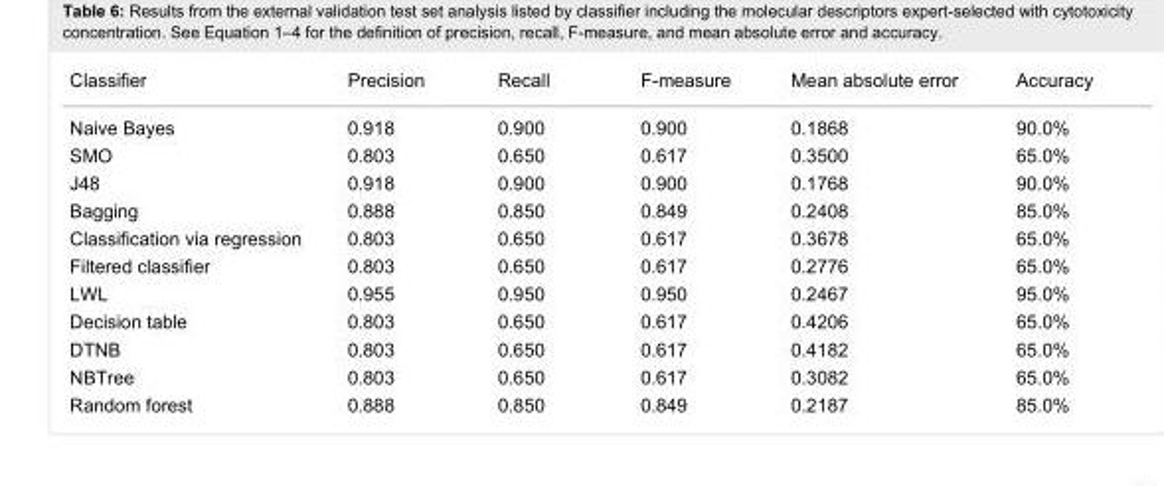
<table><tbody><tr><td>Classifier</td><td>Precision</td><td>Recall</td><td>F-measure</td><td>Mean absolute error</td><td>Accuracy</td></tr><tr><td>Naive Bayes</td><td>0.918</td><td>0.900</td><td>0.900</td><td>0.1868</td><td>90.0%</td></tr><tr><td>SMO</td><td>0.803</td><td>0.650</td><td>0.617</td><td>0.3500</td><td>65.0%</td></tr><tr><td>J48</td><td>0.918</td><td>0.900</td><td>0.900</td><td>0.1768</td><td>90.0%</td></tr><tr><td>Bagging</td><td>0.888</td><td>0.850</td><td>0.849</td><td>0.2408</td><td>85.0%</td></tr><tr><td>Classification via regression</td><td>0.803</td><td>0.650</td><td>0.617</td><td>0.3678</td><td>65.0%</td></tr><tr><td>Filtered classifier</td><td>0.803</td><td>0.650</td><td>0.617</td><td>0.2776</td><td>65.0%</td></tr><tr><td>LWL</td><td>0.955</td><td>0.950</td><td>0.950</td><td>0.2467</td><td>95.0%</td></tr><tr><td>Decision table</td><td>0.803</td><td>0.650</td><td>0.617</td><td>0.4206</td><td>65.0%</td></tr><tr><td>DTNB</td><td>0.803</td><td>0.650</td><td>0.617</td><td>0.4182</td><td>65.0%</td></tr><tr><td>NBTree</td><td>0.803</td><td>0.650</td><td>0.617</td><td>0.3082</td><td>65.0%</td></tr><tr><td>Random forest</td><td>0.888</td><td>0.850</td><td>0.849</td><td>0.2187</td><td>85.0%</td></tr></tbody></table>